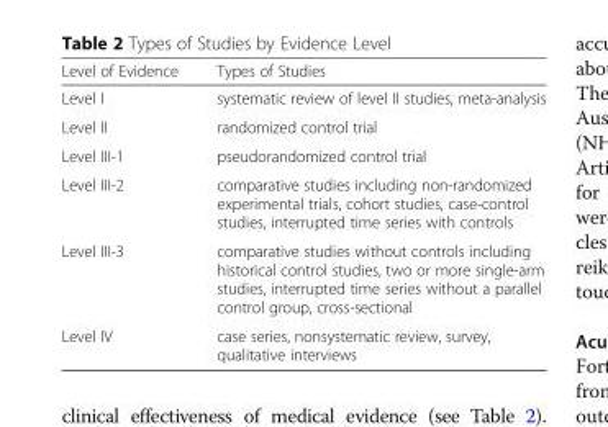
<table><thead><tr><td>Level of Evidence</td><td>Types of Studies</td></tr></thead><tbody><tr><td>Level I</td><td>systematic review of level II studies, meta-analysis</td></tr><tr><td>Level II</td><td>randomized control trial</td></tr><tr><td>Level III-1</td><td>pseudorandomized control trial</td></tr><tr><td>Level III-2</td><td>comparative studies including non-randomized experimental trials, cohort studies, case-control studies, interrupted time series with controls</td></tr><tr><td>Level III-3</td><td>comparative studies without controls including historical control studies, two or more single-arm studies, interrupted time series without a parallel control group, cross-sectional</td></tr><tr><td>Level IV</td><td>case series, nonsystematic review, survey, qualitative interviews</td></tr></tbody></table>